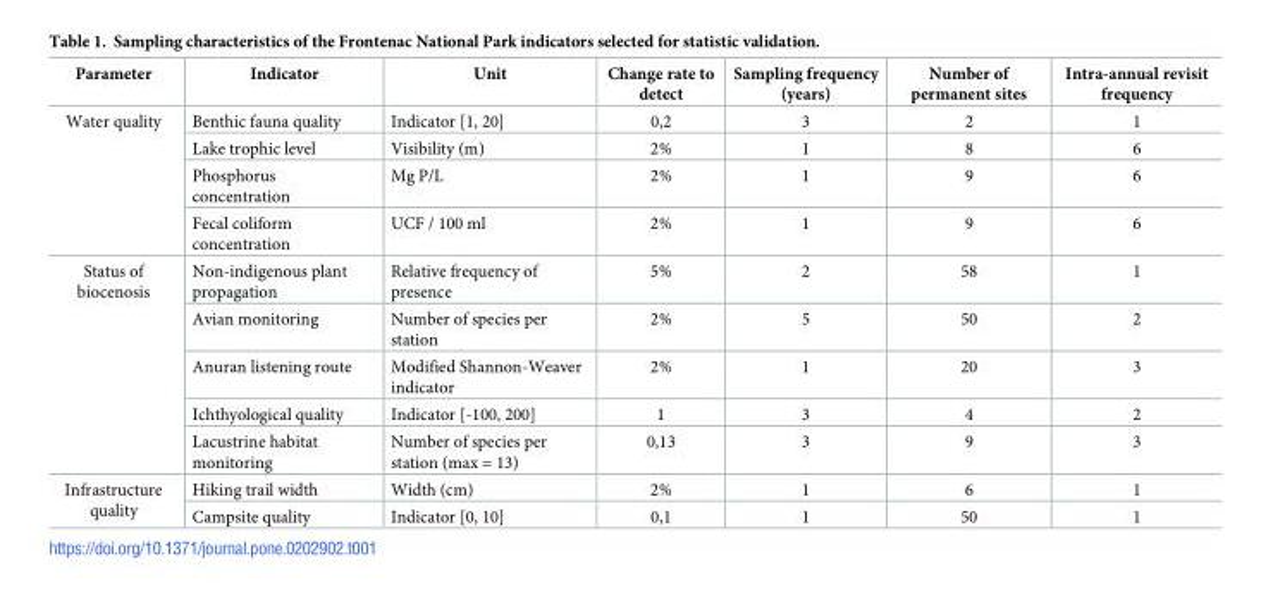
<table><thead><tr><td>Parameter</td><td>Indicator</td><td>Unit</td><td>Change rate to detect</td><td>Sampling frequency (years)</td><td>Number of permanent sites</td><td>Intra-annual revisit frequency</td></tr></thead><tbody><tr><td rowspan="4">Water quality</td><td>Benthic fauna quality</td><td>Indicator [1, 20]</td><td>0,2</td><td>3</td><td>2</td><td>1</td></tr><tr><td>Lake trophic level</td><td>Visibility (m)</td><td>2%</td><td>1</td><td>8</td><td>6</td></tr><tr><td>Phosphorus concentration</td><td>Mg P/L</td><td>2%</td><td>1</td><td>9</td><td>6</td></tr><tr><td>Fecal coliform concentration</td><td>UCF / 100 ml</td><td>2%</td><td>1</td><td>9</td><td>6</td></tr><tr><td rowspan="5">Status of biocenosis</td><td>Non-indigenous plant propagation</td><td>Relative frequency of presence</td><td>5%</td><td>2</td><td>58</td><td>1</td></tr><tr><td>Avian monitoring</td><td>Number of species per station</td><td>2%</td><td>5</td><td>50</td><td>2</td></tr><tr><td>Anuran listening route</td><td>Modified Shannon-Weaver indicator</td><td>2%</td><td>1</td><td>20</td><td>3</td></tr><tr><td>Ichthyological quality</td><td>Indicator [-100, 200]</td><td>1</td><td>3</td><td>4</td><td>2</td></tr><tr><td>Lacustrine habitat monitoring</td><td>Number of species per station (max = 13)</td><td>0,13</td><td>3</td><td>9</td><td>3</td></tr><tr><td rowspan="2">Infrastructure quality</td><td>Hiking trail width</td><td>Width (cm)</td><td>2%</td><td>1</td><td>6</td><td>1</td></tr><tr><td>Campsite quality</td><td>Indicator [0, 10]</td><td>0,1</td><td>1</td><td>50</td><td>1</td></tr></tbody></table>